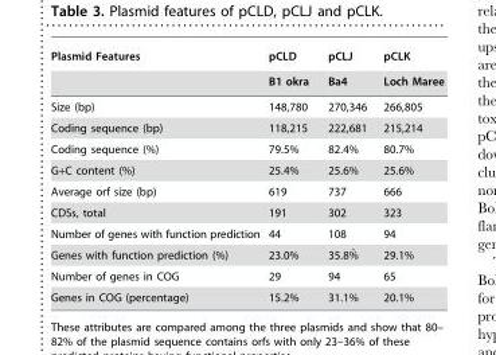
<table><thead><tr><td rowspan="2">Plasmid Features</td><td rowspan="2">pCLD B1 okra</td><td rowspan="2">pCLJ Ba4</td><td rowspan="2">pCLK Loch Maree</td></tr><tr></tr></thead><tbody><tr><td>Size (bp)</td><td>148,780</td><td>270,346</td><td>266,805</td></tr><tr><td>Coding sequence (bp)</td><td>118,215</td><td>222,681</td><td>215,214</td></tr><tr><td>Coding sequence (%)</td><td>79.5%</td><td>82.4%</td><td>80.7%</td></tr><tr><td>G+C content (%)</td><td>25.4%</td><td>25.6%</td><td>25.6%</td></tr><tr><td>Average orf size (bp)</td><td>619</td><td>737</td><td>666</td></tr><tr><td>CDSs, total</td><td>191</td><td>302</td><td>323</td></tr><tr><td>Number of genes with function prediction</td><td>44</td><td>108</td><td>94</td></tr><tr><td>Genes with function prediction (%)</td><td>23.0%</td><td>35.8%`</td><td>29.1%</td></tr><tr><td>Number of genes in COG</td><td>29</td><td>94</td><td>65</td></tr><tr><td>Genes in COG (percentage)</td><td>15.2%</td><td>31.1%</td><td>20.1%</td></tr></tbody></table>